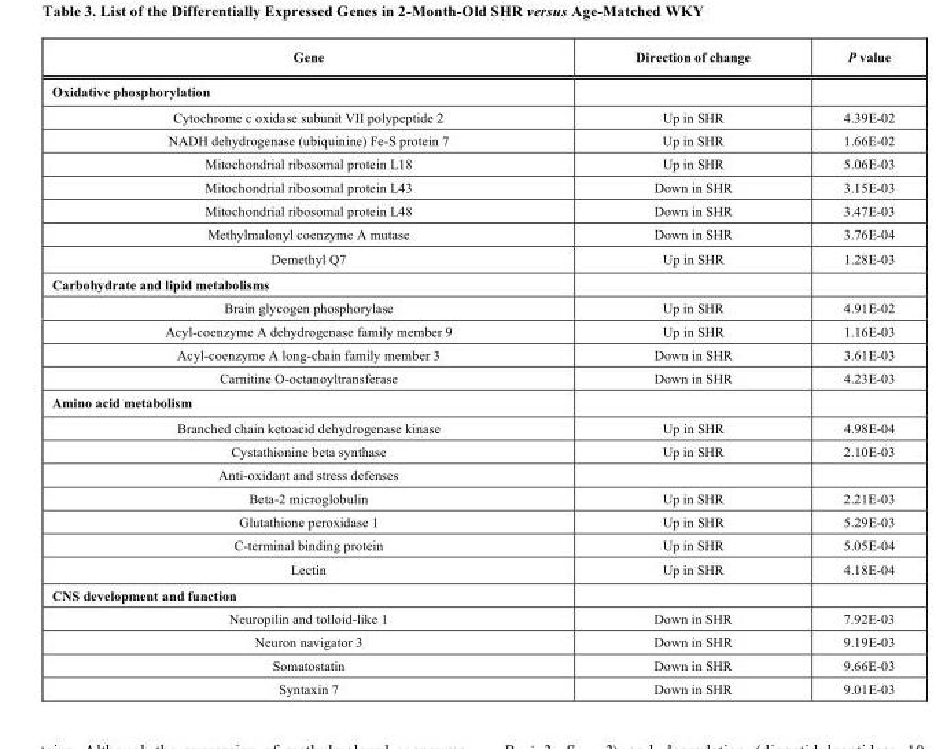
<table><thead><tr><td>Gene</td><td>Direction of change</td><td>P value</td></tr></thead><tbody><tr><td colspan="3">Oxidative phosphorylation</td></tr><tr><td>Cytochrome c oxidase subunit VII polypeptide 2</td><td>Up in SHR</td><td>4.39E-02</td></tr><tr><td>NADH dehydrogenase (ubiquinine) Fe-S protein 7</td><td>Up in SHR</td><td>1.66E-02</td></tr><tr><td>Mitochondrial ribosomal protein L18</td><td>Up in SHR</td><td>5.06E-03</td></tr><tr><td>Mitochondrial ribosomal protein L43</td><td>Down in SHR</td><td>3.15E-03</td></tr><tr><td>Mitochondrial ribosomal protein L48</td><td>Down in SHR</td><td>3.47E-03</td></tr><tr><td>Methylmalonyl coenzyme A mutase</td><td>Down in SHR</td><td>3.76E-04</td></tr><tr><td>Demethyl Q7</td><td>Up in SHR</td><td>1.28E-03</td></tr><tr><td colspan="3">Carbohydrate and lipid metabolisms</td></tr><tr><td>Brain glycogen phosphorylase</td><td>Up in SHR</td><td>4.91E-02</td></tr><tr><td>Acyl-coenzyme A dehydrogenase family member 9</td><td>Up in SHR</td><td>1.16E-03</td></tr><tr><td>Acyl-coenzyme A long-chain family member 3</td><td>Down in SHR</td><td>3.61E-03</td></tr><tr><td>Carnitine O-octanoyltransferase</td><td>Down in SHR</td><td>4.23E-03</td></tr><tr><td colspan="3">Amino acid metabolism</td></tr><tr><td>Branched chain ketoacid dehydrogenase kinase</td><td>Up in SHR</td><td>4.98E-04</td></tr><tr><td>Cystathionine beta synthase</td><td>Up in SHR</td><td>2.10E-03</td></tr><tr><td colspan="3">Anti-oxidant and stress defenses</td></tr><tr><td>Beta-2 microglobulin</td><td>Up in SHR</td><td>2.21E-03</td></tr><tr><td>Glutathione peroxidase 1</td><td>Up in SHR</td><td>5.29E-03</td></tr><tr><td>C-terminal binding protein</td><td>Up in SHR</td><td>5.05E-04</td></tr><tr><td>Lectin</td><td>Up in SHR</td><td>4.18E-04</td></tr><tr><td colspan="3">CNS development and function</td></tr><tr><td>Neuropilin and tolloid-like 1</td><td>Down in SHR</td><td>7.92E-03</td></tr><tr><td>Neuron navigator 3</td><td>Down in SHR</td><td>9.19E-03</td></tr><tr><td>Somatostatin</td><td>Down in SHR</td><td>9.66E-03</td></tr><tr><td>Syntaxin 7</td><td>Down in SHR</td><td>9.01E-03</td></tr></tbody></table>